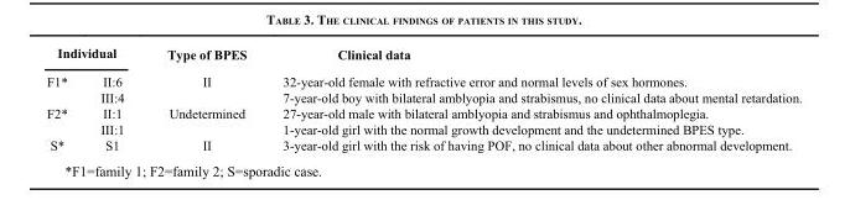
<table><thead><tr><td colspan="2">Individual</td><td rowspan="2">Type of BPES II</td><td rowspan="2">Clinical data 32-year-old female with refractive error and normal levels of sex hormones.</td></tr><tr><td>F1*</td><td>II:6</td></tr></thead><tbody><tr><td></td><td>III:4</td><td></td><td>7-year-old boy with bilateral amblyopia and strabismus, no clinical data about mental retardation.</td></tr><tr><td rowspan="2">F2*</td><td>II:1</td><td>Undetermined</td><td>27-year-old male with bilateral amblyopia and strabismus and ophthalmoplegia.</td></tr><tr><td>III:1</td><td></td><td>1-year-old girl with the normal growth development and the undetermined BPES type.</td></tr><tr><td>S*</td><td>S1</td><td>II</td><td>3-year-old girl with the risk of having POF, no clinical data about other abnormal development.</td></tr></tbody></table>